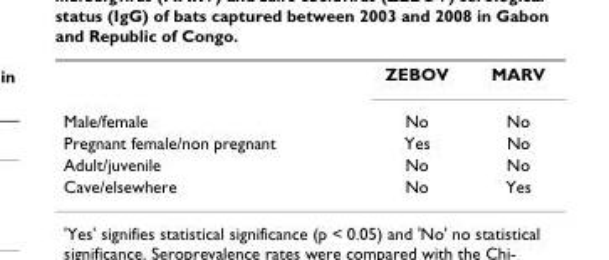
<table><thead><tr><td></td><td>ZEBOV</td><td>MARV</td></tr></thead><tbody><tr><td>Male/female</td><td>No</td><td>No</td></tr><tr><td>Pregnant female/non pregnant</td><td>Yes</td><td>No</td></tr><tr><td>Adult/juvenile</td><td>No</td><td>No</td></tr><tr><td>Cave/elsewhere</td><td>No</td><td>Yes</td></tr></tbody></table>